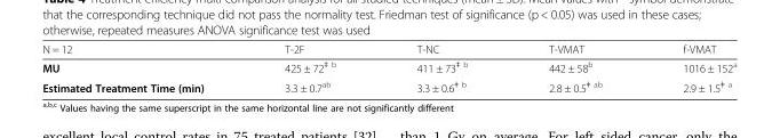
<table><thead><tr><td>N = 12</td><td>T-2F</td><td>T-NC</td><td>T-VMAT</td><td>f-VMAT</td></tr></thead><tbody><tr><td>MU</td><td>425 ± 72<sup>ǂ b</sup></td><td>411 ± 73<sup>ǂ b</sup></td><td>442 ± 58<sup>b</sup></td><td>1016 ± 152<sup>a</sup></td></tr><tr><td>Estimated Treatment Time (min)</td><td>3.3 ± 0.7<sup>ab</sup></td><td>3.3 ± 0.6<sup>ǂ b</sup></td><td>2.8 ± 0.5<sup>ǂ ab</sup></td><td>2.9 ± 1.5<sup>ǂ a</sup></td></tr></tbody></table>